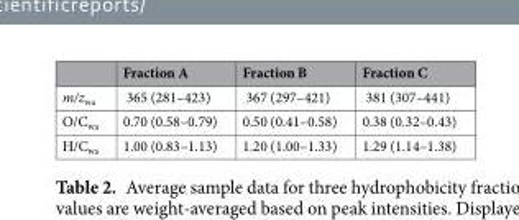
<table><thead><tr><td></td><td>Fraction A</td><td>Fraction B</td><td>Fraction C</td></tr></thead><tbody><tr><td>m/z<sub>wa</sub></td><td>365 (281–423)</td><td>367 (297–421)</td><td>381 (307–441)</td></tr><tr><td>O/C<sub>wa</sub></td><td>0.70 (0.58–0.79)</td><td>0.50 (0.41–0.58)</td><td>0.38 (0.32–0.43)</td></tr><tr><td>H/C<sub>wa</sub></td><td>1.00 (0.83–1.13)</td><td>1.20 (1.00–1.33)</td><td>1.29 (1.14–1.38)</td></tr></tbody></table>